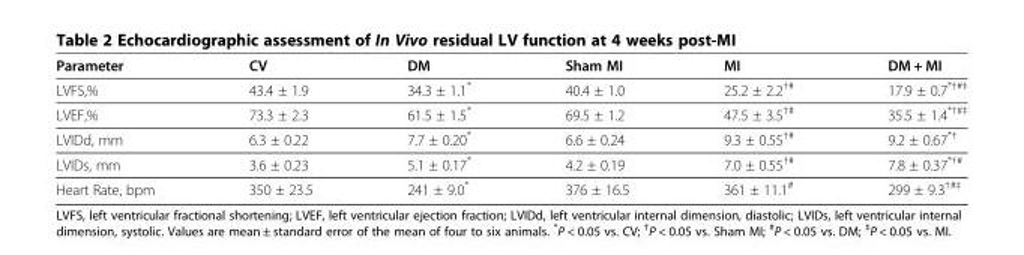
<table><thead><tr><td>Parameter</td><td>CV</td><td>DM</td><td>Sham MI</td><td>MI</td><td>DM + MI</td></tr></thead><tbody><tr><td>LVFS,%</td><td>43.4 ± 1.9</td><td>34.3 ± 1.1*</td><td>40.4 ± 1.0</td><td>25.2 ± 2.2<sup>†#</sup></td><td>17.9 ± 0.7<sup>*†#‡</sup></td></tr><tr><td>LVEF,%</td><td>73.3 ± 2.3</td><td>61.5 ± 1.5*</td><td>69.5 ± 1.2</td><td>47.5 ± 3.5<sup>†#</sup></td><td>35.5 ± 1.4<sup>*†#‡</sup></td></tr><tr><td>LVIDd, mm</td><td>6.3 ± 0.22</td><td>7.7 ± 0.20*</td><td>6.6 ± 0.24</td><td>9.3 ± 0.55<sup>†#</sup></td><td>9.2 ± 0.67<sup>*†</sup></td></tr><tr><td>LVIDs, mm</td><td>3.6 ± 0.23</td><td>5.1 ± 0.17*</td><td>4.2 ± 0.19</td><td>7.0 ± 0.55<sup>†#</sup></td><td>7.8 ± 0.37<sup>*†#</sup></td></tr><tr><td>Heart Rate, bpm</td><td>350 ± 23.5</td><td>241 ± 9.0*</td><td>376 ± 16.5</td><td>361 ± 11.1<sup>#</sup></td><td>299 ± 9.3<sup>†#‡</sup></td></tr></tbody></table>